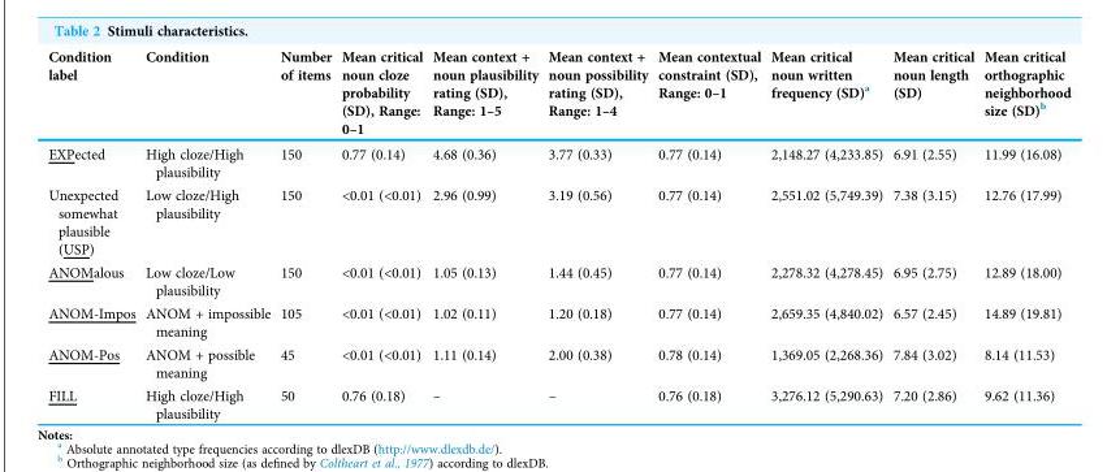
<table><thead><tr><td>Condition label</td><td>Condition</td><td>Number of items</td><td>Mean critical noun cloze probability (SD), Range: 0–1</td><td>Mean context + noun plausibility rating (SD), Range: 1–5</td><td>Mean context + noun possibility rating (SD), Range: 1–4</td><td>Mean contextual constraint (SD), Range: 0–1</td><td>Mean critical noun written frequency (SD)<sup>a</sup></td><td>Mean critical noun length (SD)</td><td>Mean critical orthographic neighborhood size (SD)<sup>b</sup></td></tr></thead><tbody><tr><td>EXPected</td><td>High cloze/High plausibility</td><td>150</td><td>0.77 (0.14)</td><td>4.68 (0.36)</td><td>3.77 (0.33)</td><td>0.77 (0.14)</td><td>2,148.27 (4,233.85)</td><td>6.91 (2.55)</td><td>11.99 (16.08)</td></tr><tr><td>Unexpected somewhat plausible (USP)</td><td>Low cloze/High plausibility</td><td>150</td><td>&lt;0.01 (&lt;0.01)</td><td>2.96 (0.99)</td><td>3.19 (0.56)</td><td>0.77 (0.14)</td><td>2,551.02 (5,749.39)</td><td>7.38 (3.15)</td><td>12.76 (17.99)</td></tr><tr><td>ANOMalous</td><td>Low cloze/Low plausibility</td><td>150</td><td>&lt;0.01 (&lt;0.01)</td><td>1.05 (0.13)</td><td>1.44 (0.45)</td><td>0.77 (0.14)</td><td>2,278.32 (4,278.45)</td><td>6.95 (2.75)</td><td>12.89 (18.00)</td></tr><tr><td>ANOM-Impos</td><td>ANOM + impossible meaning</td><td>105</td><td>&lt;0.01 (&lt;0.01)</td><td>1.02 (0.11)</td><td>1.20 (0.18)</td><td>0.77 (0.14)</td><td>2,659.35 (4,840.02)</td><td>6.57 (2.45)</td><td>14.89 (19.81)</td></tr><tr><td>ANOM-Pos</td><td>ANOM + possible meaning</td><td>45</td><td>&lt;0.01 (&lt;0.01)</td><td>1.11 (0.14)</td><td>2.00 (0.38)</td><td>0.78 (0.14)</td><td>1,369.05 (2,268.36)</td><td>7.84 (3.02)</td><td>8.14 (11.53)</td></tr><tr><td>FILL</td><td>High cloze/High plausibility</td><td>50</td><td>0.76 (0.18)</td><td>–</td><td>–</td><td>0.76 (0.18)</td><td>3,276.12 (5,290.63)</td><td>7.20 (2.86)</td><td>9.62 (11.36)</td></tr></tbody></table>